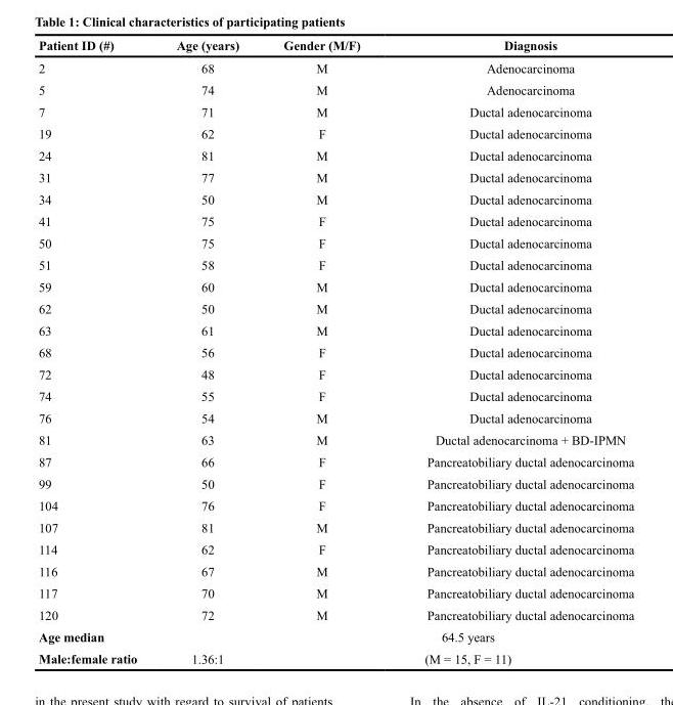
<table><thead><tr><td>Patient ID (#)</td><td>Age (years)</td><td>Gender (M/F)</td><td>Diagnosis</td></tr></thead><tbody><tr><td>2</td><td>68</td><td>M</td><td>Adenocarcinoma</td></tr><tr><td>5</td><td>74</td><td>M</td><td>Adenocarcinoma</td></tr><tr><td>7</td><td>71</td><td>M</td><td>Ductal adenocarcinoma</td></tr><tr><td>19</td><td>62</td><td>F</td><td>Ductal adenocarcinoma</td></tr><tr><td>24</td><td>81</td><td>M</td><td>Ductal adenocarcinoma</td></tr><tr><td>31</td><td>77</td><td>M</td><td>Ductal adenocarcinoma</td></tr><tr><td>34</td><td>50</td><td>M</td><td>Ductal adenocarcinoma</td></tr><tr><td>41</td><td>75</td><td>F</td><td>Ductal adenocarcinoma</td></tr><tr><td>50</td><td>75</td><td>F</td><td>Ductal adenocarcinoma</td></tr><tr><td>51</td><td>58</td><td>F</td><td>Ductal adenocarcinoma</td></tr><tr><td>59</td><td>60</td><td>M</td><td>Ductal adenocarcinoma</td></tr><tr><td>62</td><td>50</td><td>M</td><td>Ductal adenocarcinoma</td></tr><tr><td>63</td><td>61</td><td>M</td><td>Ductal adenocarcinoma</td></tr><tr><td>68</td><td>56</td><td>F</td><td>Ductal adenocarcinoma</td></tr><tr><td>72</td><td>48</td><td>F</td><td>Ductal adenocarcinoma</td></tr><tr><td>74</td><td>55</td><td>F</td><td>Ductal adenocarcinoma</td></tr><tr><td>76</td><td>54</td><td>M</td><td>Ductal adenocarcinoma</td></tr><tr><td>81</td><td>63</td><td>M</td><td>Ductal adenocarcinoma + BD-IPMN</td></tr><tr><td>87</td><td>66</td><td>F</td><td>Pancreatobiliary ductal adenocarcinoma</td></tr><tr><td>99</td><td>50</td><td>F</td><td>Pancreatobiliary ductal adenocarcinoma</td></tr><tr><td>104</td><td>76</td><td>F</td><td>Pancreatobiliary ductal adenocarcinoma</td></tr><tr><td>107</td><td>81</td><td>M</td><td>Pancreatobiliary ductal adenocarcinoma</td></tr><tr><td>114</td><td>62</td><td>F</td><td>Pancreatobiliary ductal adenocarcinoma</td></tr><tr><td>116</td><td>67</td><td>M</td><td>Pancreatobiliary ductal adenocarcinoma</td></tr><tr><td>117</td><td>70</td><td>M</td><td>Pancreatobiliary ductal adenocarcinoma</td></tr><tr><td>120</td><td>72</td><td>M</td><td>Pancreatobiliary ductal adenocarcinoma</td></tr><tr><td colspan="2">Age median</td><td colspan="2">64.5 years</td></tr><tr><td>Male:female ratio</td><td>1.36:1</td><td colspan="2">(M = 15, F = 11)</td></tr></tbody></table>